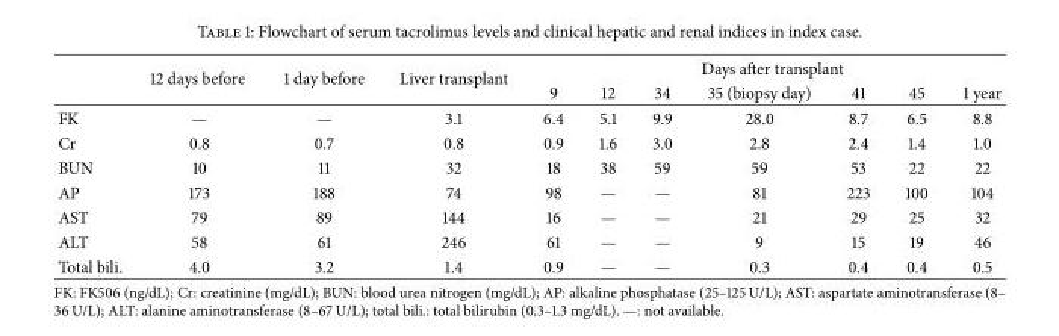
<table><thead><tr><td rowspan="2"></td><td rowspan="2">12 days before</td><td rowspan="2">1 day before</td><td rowspan="2">Liver transplant</td><td colspan="7">Days after transplant</td></tr><tr><td>9</td><td>12</td><td>34</td><td>35 (biopsy day)</td><td>41</td><td>45</td><td>1 year</td></tr></thead><tbody><tr><td>FK</td><td>—</td><td>—</td><td>3.1</td><td>6.4</td><td>5.1</td><td>9.9</td><td>28.0</td><td>8.7</td><td>6.5</td><td>8.8</td></tr><tr><td>Cr</td><td>0.8</td><td>0.7</td><td>0.8</td><td>0.9</td><td>1.6</td><td>3.0</td><td>2.8</td><td>2.4</td><td>1.4</td><td>1.0</td></tr><tr><td>BUN</td><td>10</td><td>11</td><td>32</td><td>18</td><td>38</td><td>59</td><td>59</td><td>53</td><td>22</td><td>22</td></tr><tr><td>AP</td><td>173</td><td>188</td><td>74</td><td>98</td><td>—</td><td>—</td><td>81</td><td>223</td><td>100</td><td>104</td></tr><tr><td>AST</td><td>79</td><td>89</td><td>144</td><td>16</td><td>—</td><td>—</td><td>21</td><td>29</td><td>25</td><td>32</td></tr><tr><td>ALT</td><td>58</td><td>61</td><td>246</td><td>61</td><td>—</td><td>—</td><td>9</td><td>15</td><td>19</td><td>46</td></tr><tr><td>Total bili.</td><td>4.0</td><td>3.2</td><td>1.4</td><td>0.9</td><td>—</td><td>—</td><td>0.3</td><td>0.4</td><td>0.4</td><td>0.5</td></tr></tbody></table>